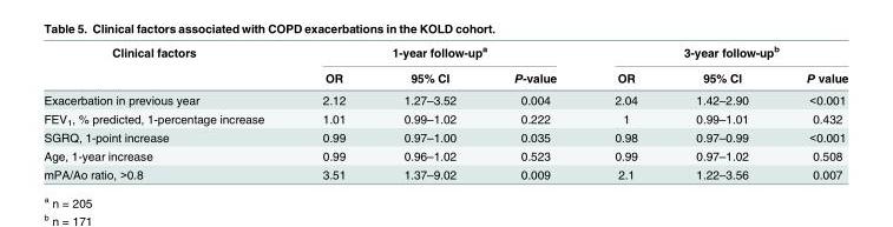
<table><thead><tr><td rowspan="2">Clinical factors</td><td colspan="3">1-year follow-up<sup>a</sup></td><td colspan="3">3-year follow-up<sup>b</sup></td></tr><tr><td>OR</td><td>95% CI</td><td>P-value</td><td>OR</td><td>95% CI</td><td>P value</td></tr></thead><tbody><tr><td>Exacerbation in previous year</td><td>2.12</td><td>1.27–3.52</td><td>0.004</td><td>2.04</td><td>1.42–2.90</td><td>&lt;0.001</td></tr><tr><td>FEV<sub>1</sub>, % predicted, 1-percentage increase</td><td>1.01</td><td>0.99–1.02</td><td>0.222</td><td>1</td><td>0.99–1.01</td><td>0.432</td></tr><tr><td>SGRQ, 1-point increase</td><td>0.99</td><td>0.97–1.00</td><td>0.035</td><td>0.98</td><td>0.97–0.99</td><td>&lt;0.001</td></tr><tr><td>Age, 1-year increase</td><td>0.99</td><td>0.96–1.02</td><td>0.523</td><td>0.99</td><td>0.97–1.02</td><td>0.508</td></tr><tr><td>mPA/Ao ratio, &gt;0.8</td><td>3.51</td><td>1.37–9.02</td><td>0.009</td><td>2.1</td><td>1.22–3.56</td><td>0.007</td></tr></tbody></table>